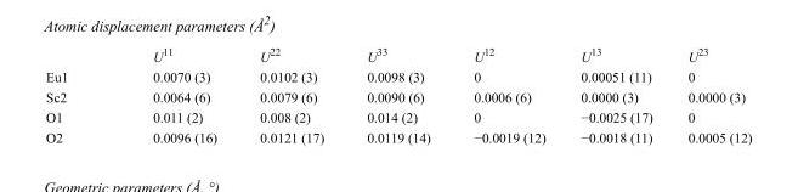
<table><thead><tr><td></td><td>U<sup>11</sup></td><td>U<sup>22</sup></td><td>U<sup>33</sup></td><td>U<sup>12</sup></td><td>U<sup>13</sup></td><td>U<sup>23</sup></td></tr></thead><tbody><tr><td>Eu1</td><td>0.0070 (3)</td><td>0.0102 (3)</td><td>0.0098 (3)</td><td>0</td><td>0.00051 (11)</td><td>0</td></tr><tr><td>Sc2</td><td>0.0064 (6)</td><td>0.0079 (6)</td><td>0.0090 (6)</td><td>0.0006 (6)</td><td>0.0000 (3)</td><td>0.0000 (3)</td></tr><tr><td>O1</td><td>0.011 (2)</td><td>0.008 (2)</td><td>0.014 (2)</td><td>0</td><td>−0.0025 (17)</td><td>0</td></tr><tr><td>O2</td><td>0.0096 (16)</td><td>0.0121 (17)</td><td>0.0119 (14)</td><td>−0.0019 (12)</td><td>−0.0018 (11)</td><td>0.0005 (12)</td></tr></tbody></table>